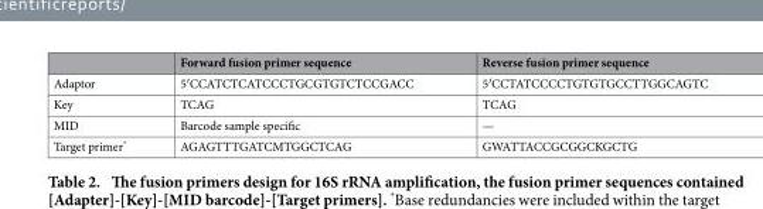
<table><thead><tr><td></td><td>Forward fusion primer sequence</td><td>Reverse fusion primer sequence</td></tr></thead><tbody><tr><td>Adaptor</td><td>5′ CCATCTCATCCCTGCGTGTCTCCGACC</td><td>5′ CCTATCCCCTGTGTGCCTTGGCAGTC</td></tr><tr><td>Key</td><td>TCAG</td><td>TCAG</td></tr><tr><td>MID</td><td>Barcode sample specific</td><td>—</td></tr><tr><td>Target primer*</td><td>AGAGTTTGATCMTGGCTCAG</td><td>GWATTACCGCGGCKGCTG</td></tr></tbody></table>